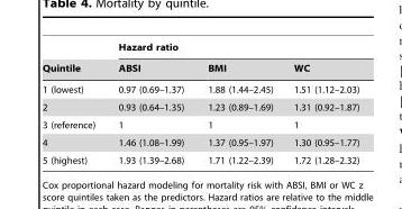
<table><thead><tr><td rowspan="2">Quintile</td><td colspan="3">Hazard ratio</td></tr><tr><td>ABSI</td><td>BMI</td><td>WC</td></tr></thead><tbody><tr><td>1 (lowest)</td><td>0.97 (0.69–1.37)</td><td>1.88 (1.44–2.45)</td><td>1.51 (1.12–2.03)</td></tr><tr><td>2</td><td>0.93 (0.64–1.35)</td><td>1.23 (0.89–1.69)</td><td>1.31 (0.92–1.87)</td></tr><tr><td>3 (reference)</td><td>1</td><td>1</td><td>1</td></tr><tr><td>4</td><td>1.46 (1.08–1.99)</td><td>1.37 (0.95–1.97)</td><td>1.30 (0.95–1.77)</td></tr><tr><td>5 (highest)</td><td>1.93 (1.39–2.68)</td><td>1.71 (1.22–2.39)</td><td>1.72 (1.28–2.32)</td></tr></tbody></table>